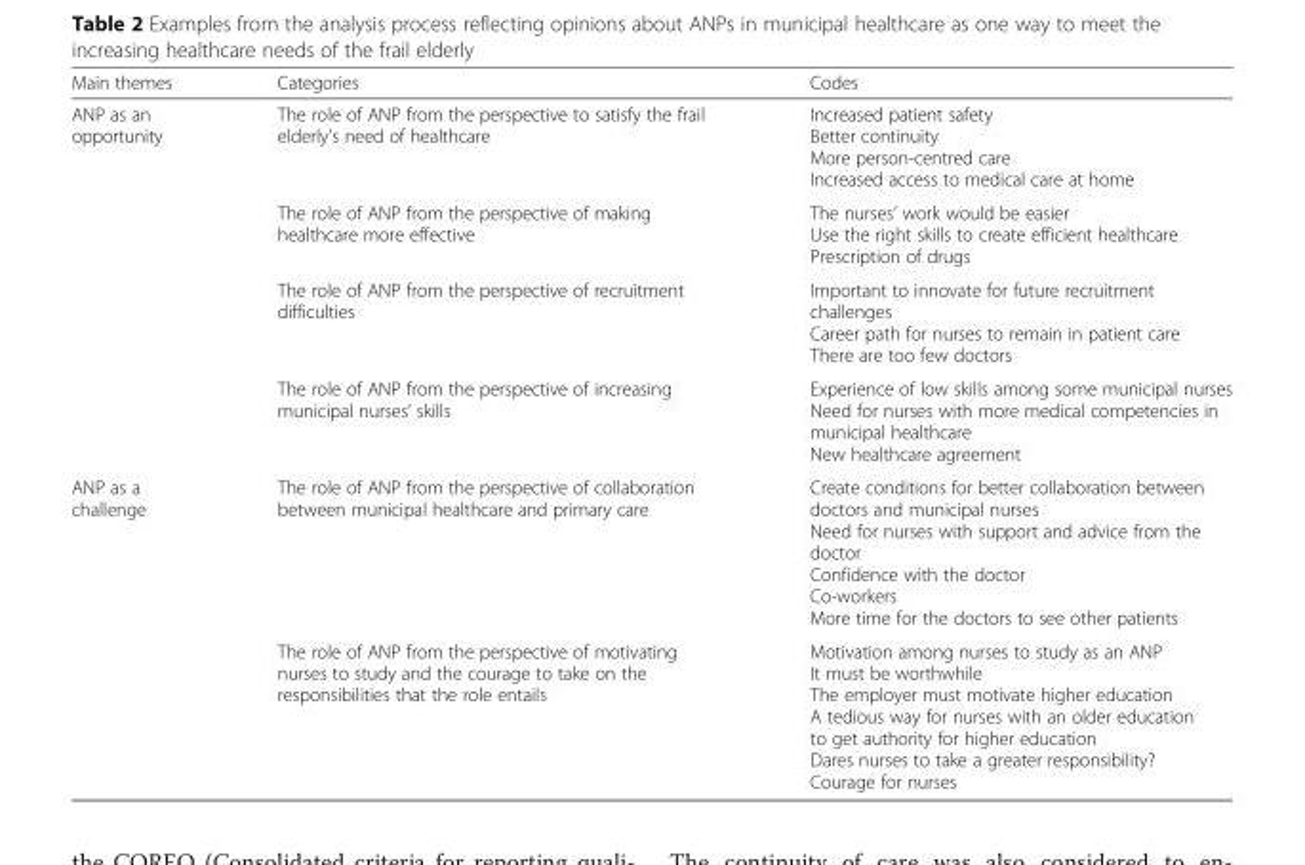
<table><thead><tr><td>Main themes</td><td>Categories</td><td>Codes</td></tr></thead><tbody><tr><td rowspan="4">ANP as an opportunity</td><td>The role of ANP from the perspective to satisfy the frail elderly’s need of healthcare</td><td>Increased patient safety Better continuity More person-centred care Increased access to medical care at home</td></tr><tr><td>The role of ANP from the perspective of making healthcare more effective</td><td>The nurses’ work would be easier Use the right skills to create efficient healthcare Prescription of drugs</td></tr><tr><td>The role of ANP from the perspective of recruitment difficulties</td><td>Important to innovate for future recruitment challenges Career path for nurses to remain in patient care There are too few doctors</td></tr><tr><td>The role of ANP from the perspective of increasing municipal nurses’ skills</td><td>Experience of low skills among some municipal nurses Need for nurses with more medical competencies in municipal healthcare New healthcare agreement</td></tr><tr><td rowspan="2">ANP as a challenge</td><td>The role of ANP from the perspective of collaboration between municipal healthcare and primary care</td><td>Create conditions for better collaboration between doctors and municipal nurses Need for nurses with support and advice from the doctor Confidence with the doctor Co-workers More time for the doctors to see other patients</td></tr><tr><td>The role of ANP from the perspective of motivating nurses to study and the courage to take on the responsibilities that the role entails</td><td>Motivation among nurses to study as an ANP It must be worthwhile The employer must motivate higher education A tedious way for nurses with an older education to get authority for higher education Dares nurses to take a greater responsibility? Courage for nurses</td></tr></tbody></table>